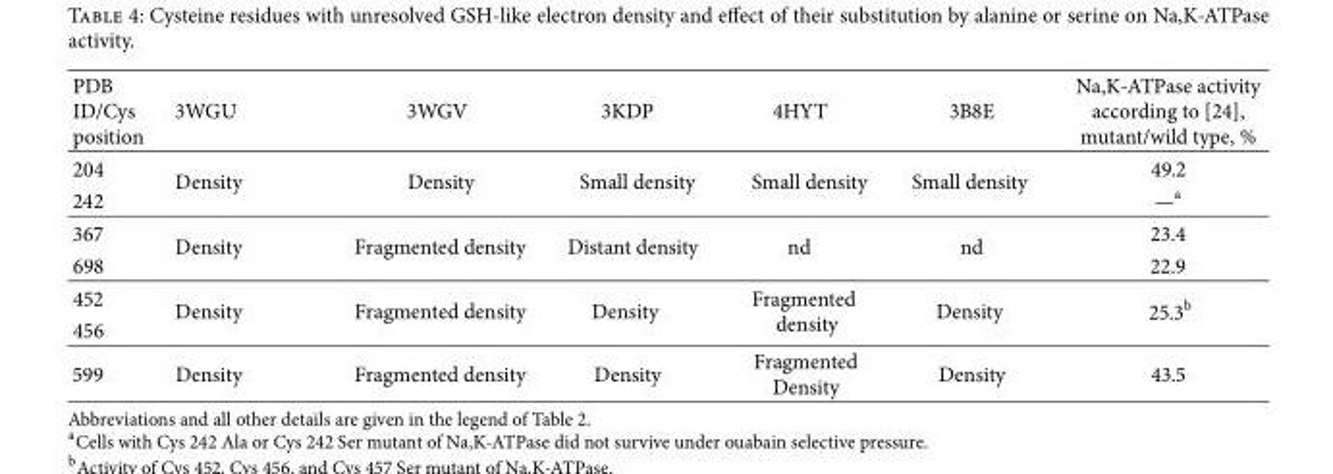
<table><thead><tr><td>PDB ID/Cys position</td><td>3WGU</td><td>3WGV</td><td>3KDP</td><td>4HYT</td><td>3B8E</td><td>Na,K-ATPase activity according to [24], mutant/wild type, %</td></tr></thead><tbody><tr><td>204</td><td rowspan="2">Density</td><td rowspan="2">Density</td><td rowspan="2">Small density</td><td rowspan="2">Small density</td><td rowspan="2">Small density</td><td>49.2</td></tr><tr><td>242</td><td>—a</td></tr><tr><td>367</td><td rowspan="2">Density</td><td rowspan="2">Fragmented density</td><td rowspan="2">Distant density</td><td rowspan="2">nd</td><td rowspan="2">nd</td><td>23.4</td></tr><tr><td>698</td><td>22.9</td></tr><tr><td>452</td><td rowspan="2">Density</td><td rowspan="2">Fragmented density</td><td rowspan="2">Density</td><td rowspan="2">Fragmented density</td><td rowspan="2">Density</td><td rowspan="2">25.3b</td></tr><tr><td>456</td></tr><tr><td>599</td><td>Density</td><td>Fragmented density</td><td>Density</td><td>Fragmented Density</td><td>Density</td><td>43.5</td></tr></tbody></table>